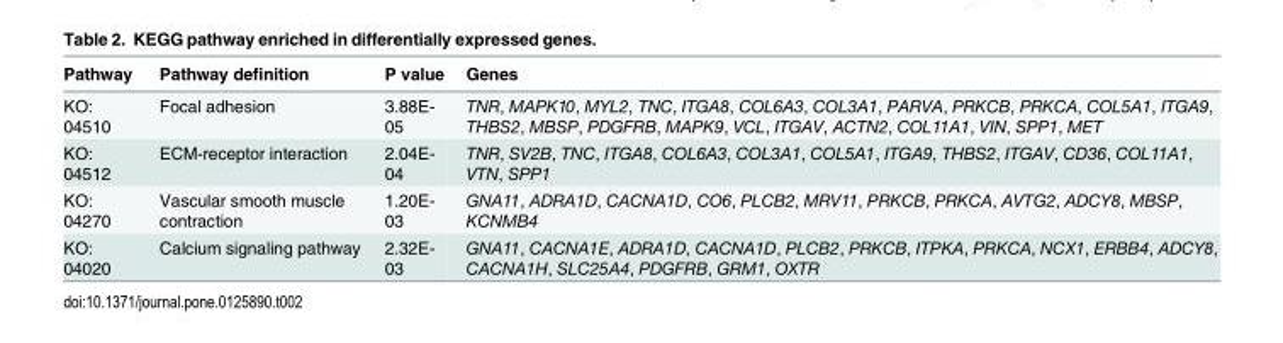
<table><thead><tr><td>Pathway</td><td>Pathway definition</td><td>P value</td><td>Genes</td></tr></thead><tbody><tr><td>KO: 04510</td><td>Focal adhesion</td><td>3.88E- 05</td><td>TNR, MAPK10, MYL2, TNC, ITGA8, COL6A3, COL3A1, PARVA, PRKCB, PRKCA, COL5A1, ITGA9, THBS2, MBSP, PDGFRB, MAPK9, VCL, ITGAV, ACTN2, COL11A1, VIN, SPP1, MET</td></tr><tr><td>KO: 04512</td><td>ECM-receptor interaction</td><td>2.04E- 04</td><td>TNR, SV2B, TNC, ITGA8, COL6A3, COL3A1, COL5A1, ITGA9, THBS2, ITGAV, CD36, COL11A1, VTN, SPP1</td></tr><tr><td>KO: 04270</td><td>Vascular smooth muscle contraction</td><td>1.20E- 03</td><td>GNA11, ADRA1D, CACNA1D, CO6, PLCB2, MRV11, PRKCB, PRKCA, AVTG2, ADCY8, MBSP, KCNMB4</td></tr><tr><td>KO: 04020</td><td>Calcium signaling pathway</td><td>2.32E- 03</td><td>GNA11, CACNA1E, ADRA1D, CACNA1D, PLCB2, PRKCB, ITPKA, PRKCA, NCX1, ERBB4, ADCY8, CACNA1H, SLC25A4, PDGFRB, GRM1, OXTR</td></tr></tbody></table>